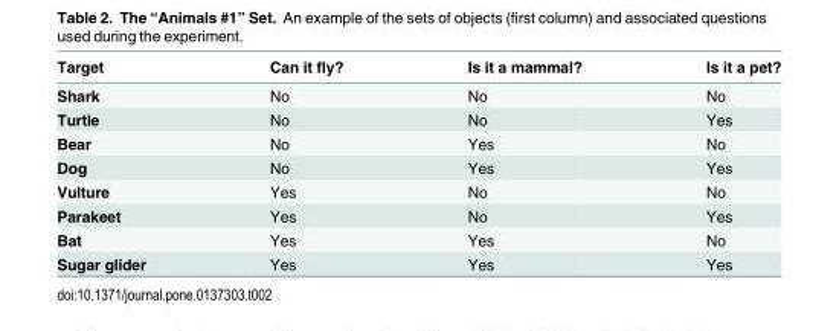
<table><thead><tr><td>Target</td><td>Can it fly?</td><td>Is it a mammal?</td><td>Is it a pet?</td></tr></thead><tbody><tr><td>Shark</td><td>No</td><td>No</td><td>No</td></tr><tr><td>Turtle</td><td>No</td><td>No</td><td>Yes</td></tr><tr><td>Bear</td><td>No</td><td>Yes</td><td>No</td></tr><tr><td>Dog</td><td>No</td><td>Yes</td><td>Yes</td></tr><tr><td>Vulture</td><td>Yes</td><td>No</td><td>No</td></tr><tr><td>Parakeet</td><td>Yes</td><td>No</td><td>Yes</td></tr><tr><td>Bat</td><td>Yes</td><td>Yes</td><td>No</td></tr><tr><td>Sugar glider</td><td>Yes</td><td>Yes</td><td>Yes</td></tr></tbody></table>